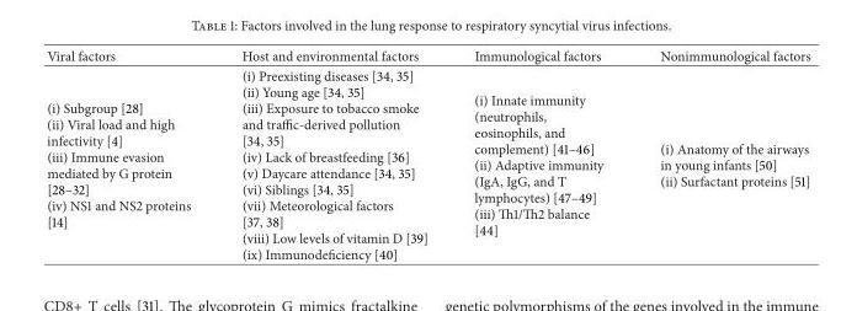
<table><thead><tr><td>Viral factors</td><td>Host and environmental factors</td><td>Immunological factors</td><td>Nonimmunological factors</td></tr></thead><tbody><tr><td>(i) Subgroup [28] (ii) Viral load and high infectivity [4] (iii) Immune evasion mediated by G protein [28–32] (iv) NS1 and NS2 proteins [14]</td><td>(i) Preexisting diseases [34, 35] (ii) Young age [34, 35] (iii) Exposure to tobacco smoke and traffic-derived pollution [34, 35] (iv) Lack of breastfeeding [36] (v) Daycare attendance [34, 35] (vi) Siblings [34, 35] (vii) Meteorological factors [37, 38] (viii) Low levels of vitamin D [39] (ix) Immunodeficiency [40]</td><td>(i) Innate immunity (neutrophils, eosinophils, and complement) [41–46] (ii) Adaptive immunity (IgA, IgG, and T lymphocytes) [47–49] (iii) Th1/Th2 balance [44]</td><td>(i) Anatomy of the airways in young infants [50] (ii) Surfactant proteins [51]</td></tr></tbody></table>